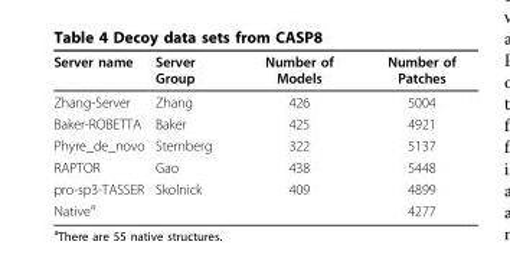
<table><thead><tr><td>Server name</td><td>Server Group</td><td>Number of Models</td><td>Number of Patches</td></tr></thead><tbody><tr><td>Zhang-Server</td><td>Zhang</td><td>426</td><td>5004</td></tr><tr><td>Baker-ROBETTA</td><td>Baker</td><td>425</td><td>4921</td></tr><tr><td>Phyre_de_novo</td><td>Sternberg</td><td>322</td><td>5137</td></tr><tr><td>RAPTOR</td><td>Gao</td><td>438</td><td>5448</td></tr><tr><td>pro-sp3-TASSER</td><td>Skolnick</td><td>409</td><td>4899</td></tr><tr><td>Native<sup>a</sup></td><td></td><td></td><td>4277</td></tr></tbody></table>